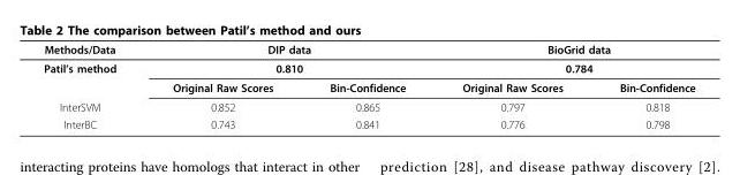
<table><thead><tr><td rowspan="3">Methods/Data Patil’s method</td><td rowspan="2" colspan="2">DIP data 0.810</td><td rowspan="2" colspan="2">BioGrid data 0.784</td></tr><tr></tr><tr><td>Original Raw Scores</td><td>Bin-Confidence</td><td>Original Raw Scores</td><td>Bin-Confidence</td></tr></thead><tbody><tr><td>InterSVM</td><td>0.852</td><td>0.865</td><td>0.797</td><td>0.818</td></tr><tr><td>InterBC</td><td>0.743</td><td>0.841</td><td>0.776</td><td>0.798</td></tr></tbody></table>